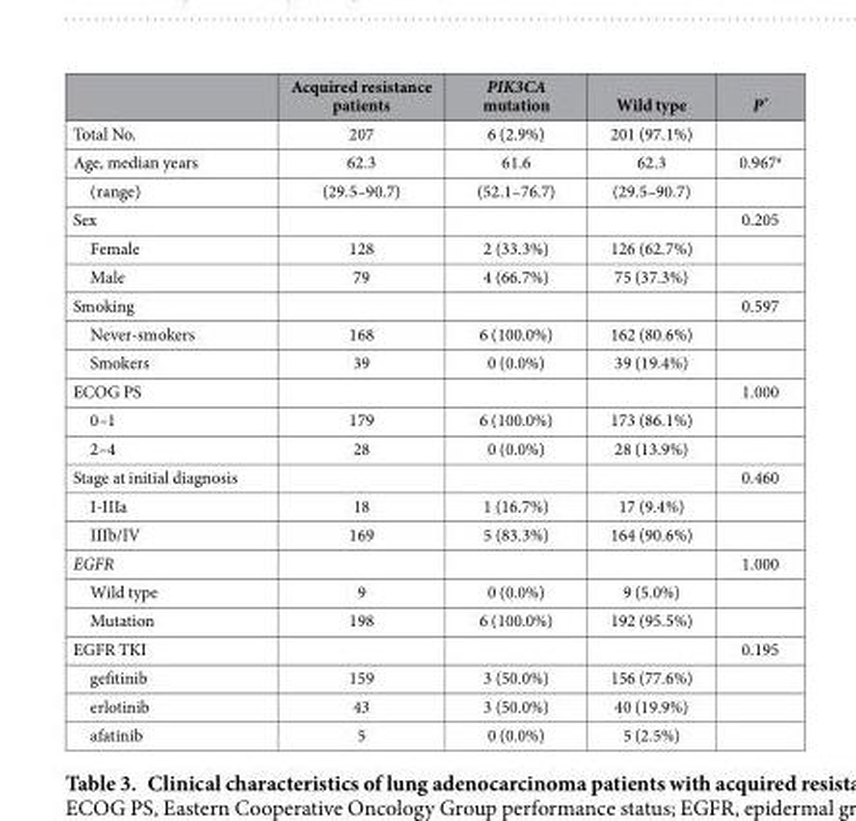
<table><thead><tr><td></td><td>Acquired resistance patients</td><td>PIK3CA mutation</td><td>Wild type</td><td>P*</td></tr></thead><tbody><tr><td>Total No.</td><td>207</td><td>6 (2.9%)</td><td>201 (97.1%)</td><td></td></tr><tr><td>Age, median years</td><td>62.3</td><td>61.6</td><td>62.3</td><td>0.967<sup>a</sup></td></tr><tr><td>(range)</td><td>(29.5–90.7)</td><td>(52.1–76.7)</td><td>(29.5–90.7)</td><td></td></tr><tr><td>Sex</td><td></td><td></td><td></td><td>0.205</td></tr><tr><td>Female</td><td>128</td><td>2 (33.3%)</td><td>126 (62.7%)</td><td></td></tr><tr><td>Male</td><td>79</td><td>4 (66.7%)</td><td>75 (37.3%)</td><td></td></tr><tr><td>Smoking</td><td></td><td></td><td></td><td>0.597</td></tr><tr><td>Never-smokers</td><td>168</td><td>6 (100.0%)</td><td>162 (80.6%)</td><td></td></tr><tr><td>Smokers</td><td>39</td><td>0 (0.0%)</td><td>39 (19.4%)</td><td></td></tr><tr><td>ECOG PS</td><td></td><td></td><td></td><td>1.000</td></tr><tr><td>0–1</td><td>179</td><td>6 (100.0%)</td><td>173 (86.1%)</td><td></td></tr><tr><td>2–4</td><td>28</td><td>0 (0.0%)</td><td>28 (13.9%)</td><td></td></tr><tr><td>Stage at initial diagnosis</td><td></td><td></td><td></td><td>0.460</td></tr><tr><td>I-IIIa</td><td>18</td><td>1 (16.7%)</td><td>17 (9.4%)</td><td></td></tr><tr><td>IIIb/IV</td><td>169</td><td>5 (83.3%)</td><td>164 (90.6%)</td><td></td></tr><tr><td>EGFR</td><td></td><td></td><td></td><td>1.000</td></tr><tr><td>Wild type</td><td>9</td><td>0 (0.0%)</td><td>9 (5.0%)</td><td></td></tr><tr><td>Mutation</td><td>198</td><td>6 (100.0%)</td><td>192 (95.5%)</td><td></td></tr><tr><td>EGFR TKI</td><td></td><td></td><td></td><td>0.195</td></tr><tr><td>gefitinib</td><td>159</td><td>3 (50.0%)</td><td>156 (77.6%)</td><td></td></tr><tr><td>erlotinib</td><td>43</td><td>3 (50.0%)</td><td>40 (19.9%)</td><td></td></tr><tr><td>afatinib</td><td>5</td><td>0 (0.0%)</td><td>5 (2.5%)</td><td></td></tr></tbody></table>